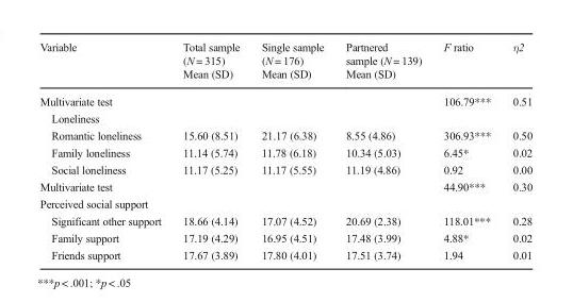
<table><thead><tr><td rowspan="2">Variable</td><td rowspan="2">Total sample (N = 315) Mean (SD)</td><td rowspan="2">Single sample (N = 176) Mean (SD)</td><td rowspan="2">Partnered sample (N = 139) Mean (SD)</td><td rowspan="2">F ratio</td><td rowspan="2">η2</td></tr><tr></tr></thead><tbody><tr><td>Multivariate test</td><td></td><td></td><td></td><td>106.79***</td><td>0.51</td></tr><tr><td colspan="6">Loneliness</td></tr><tr><td>Romantic loneliness</td><td>15.60 (8.51)</td><td>21.17 (6.38)</td><td>8.55 (4.86)</td><td>306.93***</td><td>0.50</td></tr><tr><td>Family loneliness</td><td>11.14 (5.74)</td><td>11.78 (6.18)</td><td>10.34 (5.03)</td><td>6.45*</td><td>0.02</td></tr><tr><td>Social loneliness</td><td>11.17 (5.25)</td><td>11.17 (5.55)</td><td>11.19 (4.86)</td><td>0.92</td><td>0.00</td></tr><tr><td>Multivariate test</td><td></td><td></td><td></td><td>44.90***</td><td>0.30</td></tr><tr><td colspan="6">Perceived social support</td></tr><tr><td>Significant other support</td><td>18.66 (4.14)</td><td>17.07 (4.52)</td><td>20.69 (2.38)</td><td>118.01***</td><td>0.28</td></tr><tr><td>Family support</td><td>17.19 (4.29)</td><td>16.95 (4.51)</td><td>17.48 (3.99)</td><td>4.88*</td><td>0.02</td></tr><tr><td>Friends support</td><td>17.67 (3.89)</td><td>17.80 (4.01)</td><td>17.51 (3.74)</td><td>1.94</td><td>0.01</td></tr></tbody></table>